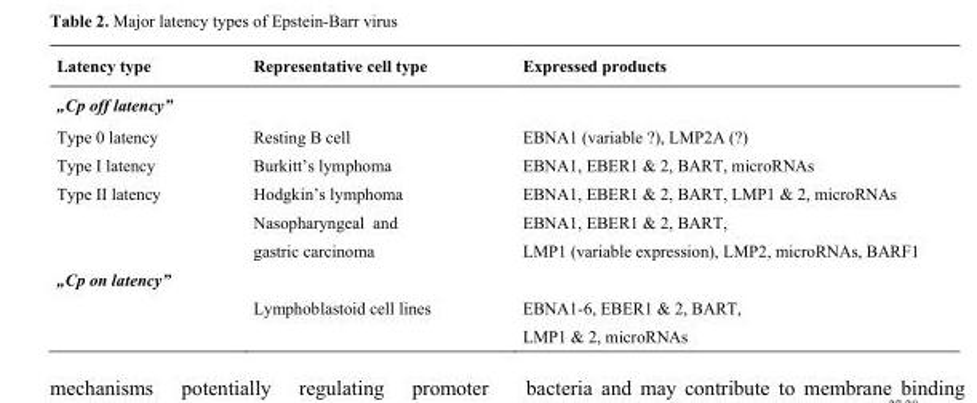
<table><thead><tr><td>Latency type</td><td>Representative cell type</td><td>Expressed products</td></tr></thead><tbody><tr><td colspan="3">„Cp off latency”</td></tr><tr><td>Type 0 latency</td><td>Resting B cell</td><td>EBNA1 (variable ?), LMP2A (?)</td></tr><tr><td>Type I latency</td><td>Burkitt’s lymphoma</td><td>EBNA1, EBER1 &amp; 2, BART, microRNAs</td></tr><tr><td rowspan="2">Type II latency</td><td>Hodgkin’s lymphoma</td><td>EBNA1, EBER1 &amp; 2, BART, LMP1 &amp; 2, microRNAs</td></tr><tr><td>Nasopharyngeal and gastric carcinoma</td><td>EBNA1, EBER1 &amp; 2, BART, LMP1 (variable expression), LMP2, microRNAs, BARF1</td></tr><tr><td colspan="3">„Cp on latency”</td></tr><tr><td></td><td>Lymphoblastoid cell lines</td><td>EBNA1-6, EBER1 &amp; 2, BART, LMP1 &amp; 2, microRNAs</td></tr></tbody></table>